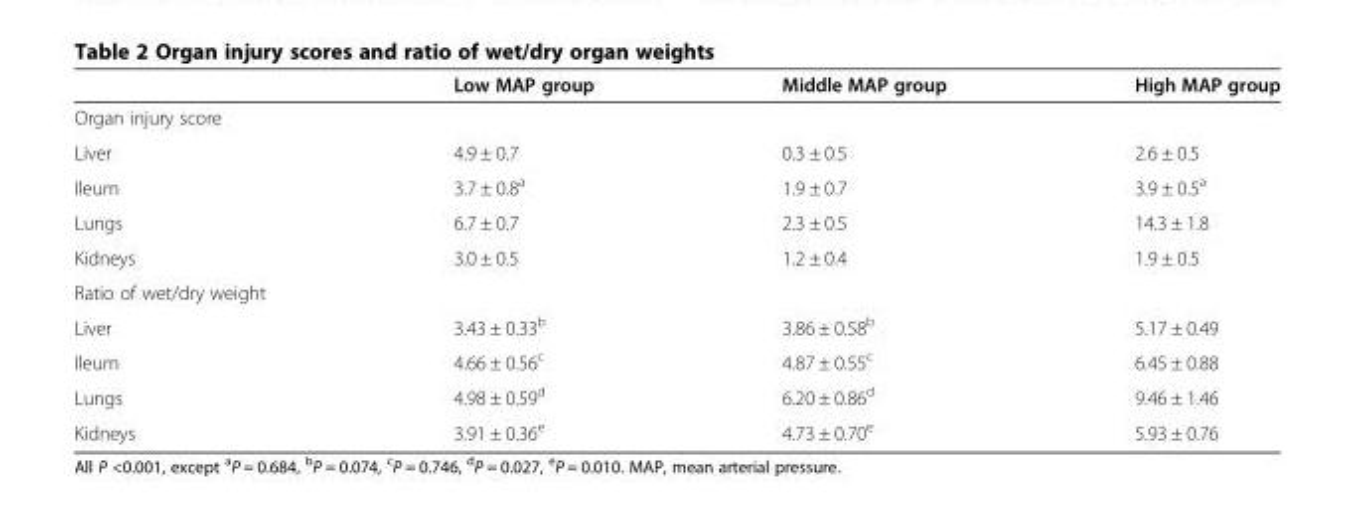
<table><thead><tr><td></td><td>Low MAP group</td><td>Middle MAP group</td><td>High MAP group</td></tr></thead><tbody><tr><td colspan="4">Organ injury score</td></tr><tr><td>Liver</td><td>4.9 ± 0.7</td><td>0.3 ± 0.5</td><td>2.6 ± 0.5</td></tr><tr><td>Ileum</td><td>3.7 ± 0.8<sup>a</sup></td><td>1.9 ± 0.7</td><td>3.9 ± 0.5<sup>a</sup></td></tr><tr><td>Lungs</td><td>6.7 ± 0.7</td><td>2.3 ± 0.5</td><td>14.3 ± 1.8</td></tr><tr><td>Kidneys</td><td>3.0 ± 0.5</td><td>1.2 ± 0.4</td><td>1.9 ± 0.5</td></tr><tr><td colspan="4">Ratio of wet/dry weight</td></tr><tr><td>Liver</td><td>3.43 ± 0.33<sup>b</sup></td><td>3.86 ± 0.58<sup>b</sup></td><td>5.17 ± 0.49</td></tr><tr><td>Ileum</td><td>4.66 ± 0.56<sup>c</sup></td><td>4.87 ± 0.55<sup>c</sup></td><td>6.45 ± 0.88</td></tr><tr><td>Lungs</td><td>4.98 ± 0.59<sup>d</sup></td><td>6.20 ± 0.86<sup>d</sup></td><td>9.46 ± 1.46</td></tr><tr><td>Kidneys</td><td>3.91 ± 0.36<sup>e</sup></td><td>4.73 ± 0.70<sup>e</sup></td><td>5.93 ± 0.76</td></tr></tbody></table>